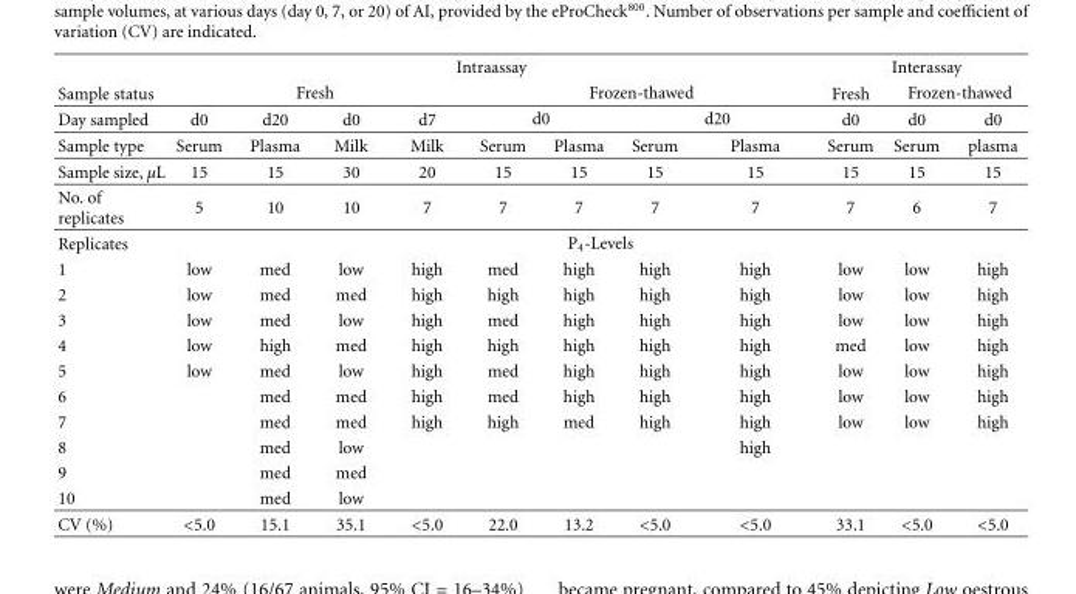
<table><thead><tr><td rowspan="4">Sample status Day sampled Sample type</td><td colspan="8">Intraassay</td><td colspan="3">Interassay</td></tr><tr><td colspan="4">Fresh</td><td colspan="4">Frozen-thawed</td><td rowspan="3">Fresh d0 Serum</td><td colspan="2">Frozen-thawed</td></tr><tr><td rowspan="2">d0 Serum</td><td rowspan="2">d20 Plasma</td><td rowspan="2">d0 Milk</td><td rowspan="2">d7 Milk</td><td colspan="2">d0</td><td colspan="2">d20</td><td rowspan="2">d0 Serum</td><td rowspan="2">d0 plasma</td></tr><tr><td>Serum</td><td>Plasma</td><td>Serum</td><td>Plasma</td></tr></thead><tbody><tr><td>Sample size, µL</td><td>15</td><td>15</td><td>30</td><td>20</td><td>15</td><td>15</td><td>15</td><td>15</td><td>15</td><td>15</td><td>15</td></tr><tr><td>No. of replicates</td><td>5</td><td>10</td><td>10</td><td>7</td><td>7</td><td>7</td><td>7</td><td>7</td><td>7</td><td>6</td><td>7</td></tr><tr><td>Replicates</td><td colspan="11">P<sub>4</sub>-Levels</td></tr><tr><td>1</td><td>low</td><td>med</td><td>low</td><td>high</td><td>med</td><td>high</td><td>high</td><td>high</td><td>low</td><td>low</td><td>high</td></tr><tr><td>2</td><td>low</td><td>med</td><td>med</td><td>high</td><td>high</td><td>high</td><td>high</td><td>high</td><td>low</td><td>low</td><td>high</td></tr><tr><td>3</td><td>low</td><td>med</td><td>low</td><td>high</td><td>med</td><td>high</td><td>high</td><td>high</td><td>low</td><td>low</td><td>high</td></tr><tr><td>4</td><td>low</td><td>high</td><td>med</td><td>high</td><td>high</td><td>high</td><td>high</td><td>high</td><td>med</td><td>low</td><td>high</td></tr><tr><td>5</td><td>low</td><td>med</td><td>low</td><td>high</td><td>med</td><td>high</td><td>high</td><td>high</td><td>low</td><td>low</td><td>high</td></tr><tr><td>6</td><td></td><td>med</td><td>med</td><td>high</td><td>med</td><td>high</td><td>high</td><td>high</td><td>low</td><td>low</td><td>high</td></tr><tr><td>7</td><td></td><td>med</td><td>med</td><td>high</td><td>high</td><td>med</td><td>high</td><td>high</td><td>low</td><td>low</td><td>high</td></tr><tr><td>8</td><td></td><td>med</td><td>low</td><td></td><td></td><td></td><td></td><td>high</td><td></td><td></td><td></td></tr><tr><td>9</td><td></td><td>med</td><td>med</td><td></td><td></td><td></td><td></td><td></td><td></td><td></td><td></td></tr><tr><td>10</td><td></td><td>med</td><td>low</td><td></td><td></td><td></td><td></td><td></td><td></td><td></td><td></td></tr><tr><td>CV (%)</td><td>&lt;5.0</td><td>15.1</td><td>35.1</td><td>&lt;5.0</td><td>22.0</td><td>13.2</td><td>&lt;5.0</td><td>&lt;5.0</td><td>33.1</td><td>&lt;5.0</td><td>&lt;5.0</td></tr></tbody></table>